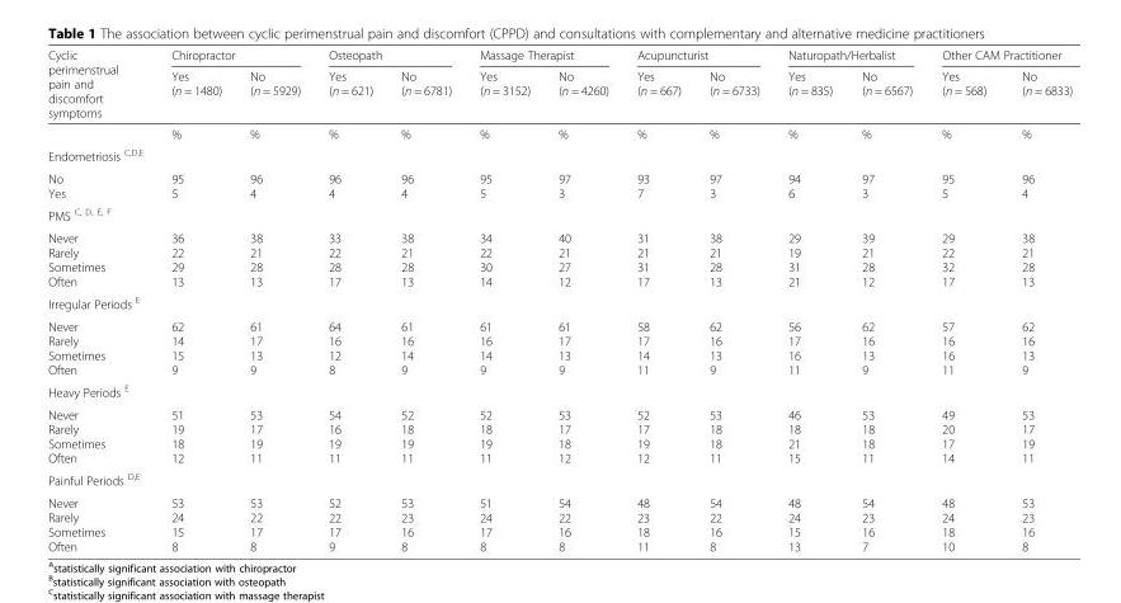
<table><thead><tr><td rowspan="2">Cyclic perimenstrual pain and discomfort symptoms</td><td colspan="2">Chiropractor</td><td colspan="2">Osteopath</td><td colspan="2">Massage Therapist</td><td colspan="2">Acupuncturist</td><td colspan="2">Naturopath/Herbalist</td><td colspan="2">Other CAM Practitioner</td></tr><tr><td>Yes (n = 1480)</td><td>No (n = 5929)</td><td>Yes (n = 621)</td><td>No (n = 6781)</td><td>Yes (n = 3152)</td><td>No (n = 4260)</td><td>Yes (n = 667)</td><td>No (n = 6733)</td><td>Yes (n = 835)</td><td>No (n = 6567)</td><td>Yes (n = 568)</td><td>No (n = 6833)</td></tr></thead><tbody><tr><td></td><td>%</td><td>%</td><td>%</td><td>%</td><td>%</td><td>%</td><td>%</td><td>%</td><td>%</td><td>%</td><td>%</td><td>%</td></tr><tr><td colspan="13">Endometriosis <sup>C,D,E</sup></td></tr><tr><td>No Yes</td><td>95 5</td><td>96 4</td><td>96 4</td><td>96 4</td><td>95 5</td><td>97 3</td><td>93 7</td><td>97 3</td><td>94 6</td><td>97 3</td><td>95 5</td><td>96 4</td></tr><tr><td colspan="13">PMS <sup>C, D, E, F</sup></td></tr><tr><td>Never Rarely Sometimes Often</td><td>36 22 29 13</td><td>38 21 28 13</td><td>33 22 28 17</td><td>38 21 28 13</td><td>34 22 30 14</td><td>40 21 27 12</td><td>31 21 31 17</td><td>38 21 28 13</td><td>29 19 31 21</td><td>39 21 28 12</td><td>29 22 32 17</td><td>38 21 28 13</td></tr><tr><td colspan="13">Irregular Periods <sup>E</sup></td></tr><tr><td>Never Rarely Sometimes Often</td><td>62 14 15 9</td><td>61 17 13 9</td><td>64 16 12 8</td><td>61 16 14 9</td><td>61 16 14 9</td><td>61 17 13 9</td><td>58 17 14 11</td><td>62 16 13 9</td><td>56 17 16 11</td><td>62 16 13 9</td><td>57 16 16 11</td><td>62 16 13 9</td></tr><tr><td colspan="13">Heavy Periods <sup>E</sup></td></tr><tr><td>Never Rarely Sometimes Often</td><td>51 19 18 12</td><td>53 17 19 11</td><td>54 16 19 11</td><td>52 18 19 11</td><td>52 18 19 11</td><td>53 17 18 12</td><td>52 17 19 12</td><td>53 18 18 11</td><td>46 18 21 15</td><td>53 18 18 11</td><td>49 20 17 14</td><td>53 17 19 11</td></tr><tr><td colspan="13">Painful Periods <sup>D,E</sup></td></tr><tr><td>Never Rarely Sometimes Often</td><td>53 24 15 8</td><td>53 22 17 8</td><td>52 22 17 9</td><td>53 23 16 8</td><td>51 24 17 8</td><td>54 22 16 8</td><td>48 23 18 11</td><td>54 22 16 8</td><td>48 24 15 13</td><td>54 23 16 7</td><td>48 24 18 10</td><td>53 23 16 8</td></tr></tbody></table>